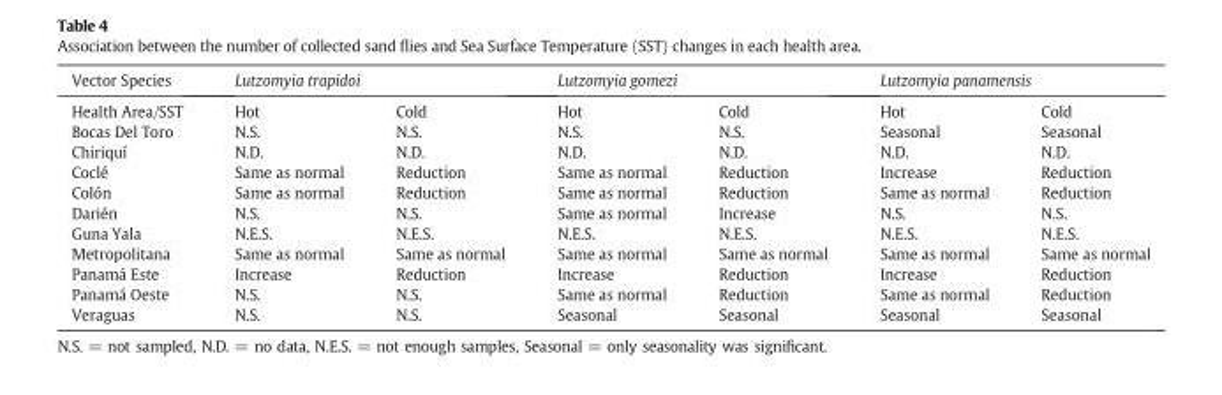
<table><thead><tr><td rowspan="2">Vector Species Health Area/SST</td><td colspan="2">Lutzomyia trapidoi</td><td colspan="2">Lutzomyia gomezi</td><td colspan="2">Lutzomyia panamensis</td></tr><tr><td>Hot</td><td>Cold</td><td>Hot</td><td>Cold</td><td>Hot</td><td>Cold</td></tr></thead><tbody><tr><td>Bocas Del Toro</td><td>N.S.</td><td>N.S.</td><td>N.S.</td><td>N.S.</td><td>Seasonal</td><td>Seasonal</td></tr><tr><td>Chiriquí</td><td>N.D.</td><td>N.D.</td><td>N.D.</td><td>N.D.</td><td>N.D.</td><td>N.D.</td></tr><tr><td>Coclé</td><td>Same as normal</td><td>Reduction</td><td>Same as normal</td><td>Reduction</td><td>Increase</td><td>Reduction</td></tr><tr><td>Colón</td><td>Same as normal</td><td>Reduction</td><td>Same as normal</td><td>Reduction</td><td>Same as normal</td><td>Reduction</td></tr><tr><td>Darién</td><td>N.S.</td><td>N.S.</td><td>Same as normal</td><td>Increase</td><td>N.S.</td><td>N.S.</td></tr><tr><td>Guna Yala</td><td>N.E.S.</td><td>N.E.S.</td><td>N.E.S.</td><td>N.E.S.</td><td>N.E.S.</td><td>N.E.S.</td></tr><tr><td>Metropolitana</td><td>Same as normal</td><td>Same as normal</td><td>Same as normal</td><td>Same as normal</td><td>Same as normal</td><td>Same as normal</td></tr><tr><td>Panamá Este</td><td>Increase</td><td>Reduction</td><td>Increase</td><td>Reduction</td><td>Increase</td><td>Reduction</td></tr><tr><td>Panamá Oeste</td><td>N.S.</td><td>N.S.</td><td>Same as normal</td><td>Reduction</td><td>Same as normal</td><td>Reduction</td></tr><tr><td>Veraguas</td><td>N.S.</td><td>N.S.</td><td>Seasonal</td><td>Seasonal</td><td>Seasonal</td><td>Seasonal</td></tr></tbody></table>